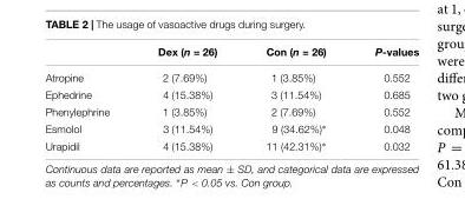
<table><thead><tr><td></td><td>Dex (n = 26)</td><td>Con (n = 26)</td><td>P-values</td></tr></thead><tbody><tr><td>Atropine</td><td>2 (7.69%)</td><td>1 (3.85%)</td><td>0.552</td></tr><tr><td>Ephedrine</td><td>4 (15.38%)</td><td>3 (11.54%)</td><td>0.685</td></tr><tr><td>Phenylephrine</td><td>1 (3.85%)</td><td>2 (7.69%)</td><td>0.552</td></tr><tr><td>Esmolol</td><td>3 (11.54%)</td><td>9 (34.62%)∗</td><td>0.048</td></tr><tr><td>Urapidil</td><td>4 (15.38%)</td><td>11 (42.31%)∗</td><td>0.032</td></tr></tbody></table>